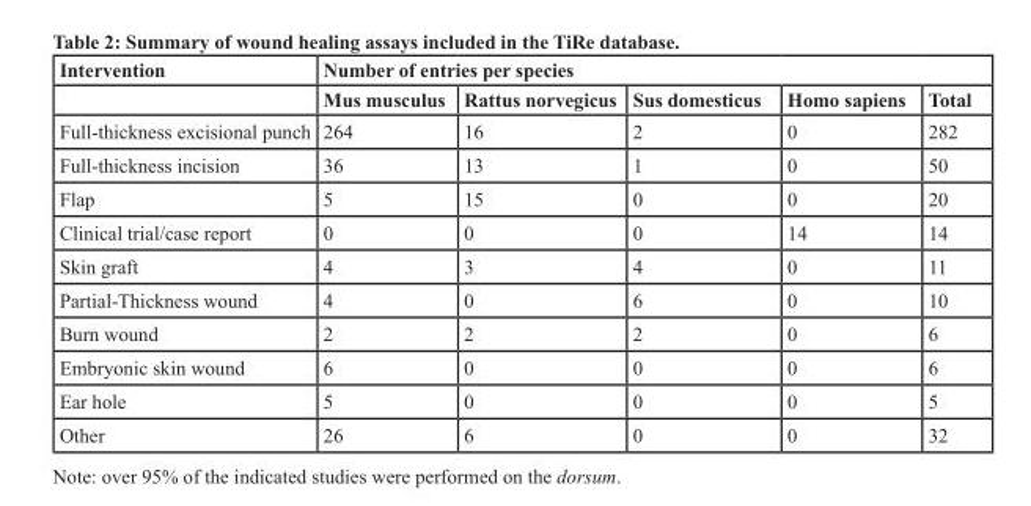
<table><thead><tr><td rowspan="2">Intervention</td><td colspan="5">Number of entries per species</td></tr><tr><td>Mus musculus</td><td>Rattus norvegicus</td><td>Sus domesticus</td><td>Homo sapiens</td><td>Total</td></tr></thead><tbody><tr><td>Full-thickness excisional punch</td><td>264</td><td>16</td><td>2</td><td>0</td><td>282</td></tr><tr><td>Full-thickness incision</td><td>36</td><td>13</td><td>1</td><td>0</td><td>50</td></tr><tr><td>Flap</td><td>5</td><td>15</td><td>0</td><td>0</td><td>20</td></tr><tr><td>Clinical trial/case report</td><td>0</td><td>0</td><td>0</td><td>14</td><td>14</td></tr><tr><td>Skin graft</td><td>4</td><td>3</td><td>4</td><td>0</td><td>11</td></tr><tr><td>Partial-Thickness wound</td><td>4</td><td>0</td><td>6</td><td>0</td><td>10</td></tr><tr><td>Burn wound</td><td>2</td><td>2</td><td>2</td><td>0</td><td>6</td></tr><tr><td>Embryonic skin wound</td><td>6</td><td>0</td><td>0</td><td>0</td><td>6</td></tr><tr><td>Ear hole</td><td>5</td><td>0</td><td>0</td><td>0</td><td>5</td></tr><tr><td>Other</td><td>26</td><td>6</td><td>0</td><td>0</td><td>32</td></tr></tbody></table>